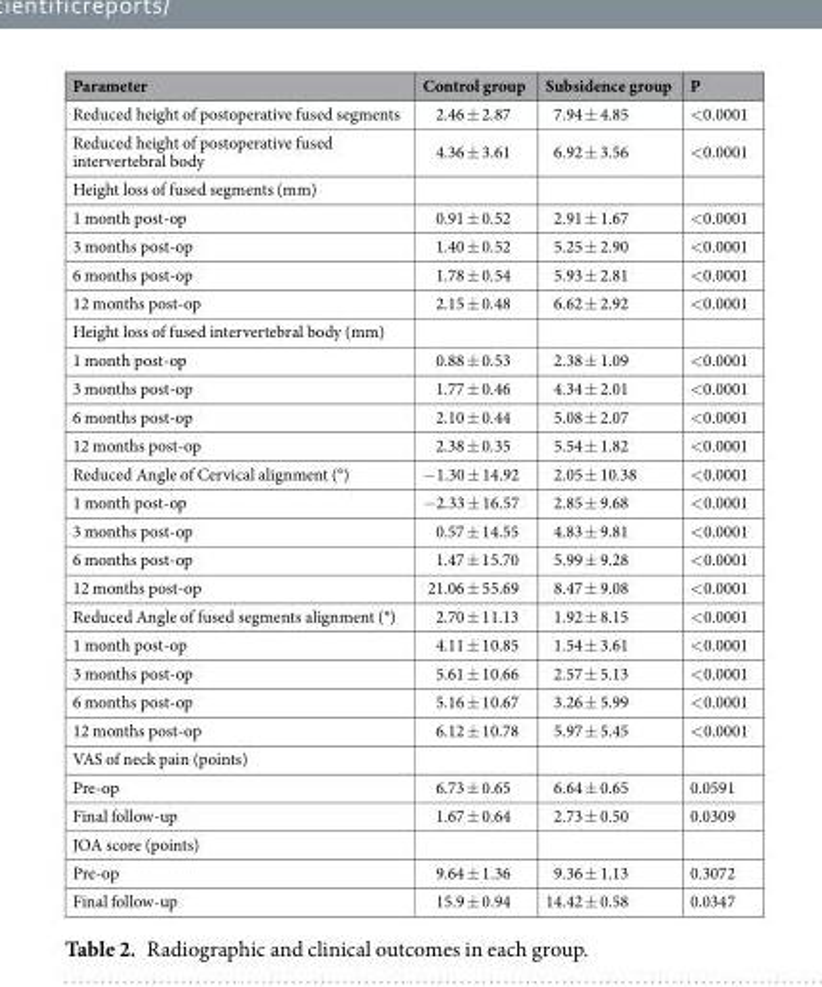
<table><thead><tr><td>Parameter</td><td>Control group</td><td>Subsidence group</td><td>P</td></tr></thead><tbody><tr><td>Reduced height of postoperative fused segments</td><td>2.46 ± 2.87</td><td>7.94 ± 4.85</td><td>&lt;0.0001</td></tr><tr><td>Reduced height of postoperative fused intervertebral body</td><td>4.36 ± 3.61</td><td>6.92 ± 3.56</td><td>&lt;0.0001</td></tr><tr><td colspan="4">Height loss of fused segments (mm)</td></tr><tr><td>1 month post-op</td><td>0.91 ± 0.52</td><td>2.91 ± 1.67</td><td>&lt;0.0001</td></tr><tr><td>3 months post-op</td><td>1.40 ± 0.52</td><td>5.25 ± 2.90</td><td>&lt;0.0001</td></tr><tr><td>6 months post-op</td><td>1.78 ± 0.54</td><td>5.93 ± 2.81</td><td>&lt;0.0001</td></tr><tr><td>12 months post-op</td><td>2.15 ± 0.48</td><td>6.62 ± 2.92</td><td>&lt;0.0001</td></tr><tr><td colspan="4">Height loss of fused intervertebral body (mm)</td></tr><tr><td>1 month post-op</td><td>0.88 ± 0.53</td><td>2.38 ± 1.09</td><td>&lt;0.0001</td></tr><tr><td>3 months post-op</td><td>1.77 ± 0.46</td><td>4.34 ± 2.01</td><td>&lt;0.0001</td></tr><tr><td>6 months post-op</td><td>2.10 ± 0.44</td><td>5.08 ± 2.07</td><td>&lt;0.0001</td></tr><tr><td>12 months post-op</td><td>2.38 ± 0.35</td><td>5.54 ± 1.82</td><td>&lt;0.0001</td></tr><tr><td>Reduced Angle of Cervical alignment (°)</td><td>−1.30 ± 14.92</td><td>2.05 ± 10.38</td><td>&lt;0.0001</td></tr><tr><td>1 month post-op</td><td>−2.33 ± 16.57</td><td>2.85 ± 9.68</td><td>&lt;0.0001</td></tr><tr><td>3 months post-op</td><td>0.57 ± 14.55</td><td>4.83 ± 9.81</td><td>&lt;0.0001</td></tr><tr><td>6 months post-op</td><td>1.47 ± 15.70</td><td>5.99 ± 9.28</td><td>&lt;0.0001</td></tr><tr><td>12 months post-op</td><td>21.06 ± 55.69</td><td>8.47 ± 9.08</td><td>&lt;0.0001</td></tr><tr><td>Reduced Angle of fused segments alignment (°)</td><td>2.70 ± 11.13</td><td>1.92 ± 8.15</td><td>&lt;0.0001</td></tr><tr><td>1 month post-op</td><td>4.11 ± 10.85</td><td>1.54 ± 3.61</td><td>&lt;0.0001</td></tr><tr><td>3 months post-op</td><td>5.61 ± 10.66</td><td>2.57 ± 5.13</td><td>&lt;0.0001</td></tr><tr><td>6 months post-op</td><td>5.16 ± 10.67</td><td>3.26 ± 5.99</td><td>&lt;0.0001</td></tr><tr><td>12 months post-op</td><td>6.12 ± 10.78</td><td>5.97 ± 5.45</td><td>&lt;0.0001</td></tr><tr><td colspan="4">VAS of neck pain (points)</td></tr><tr><td>Pre-op</td><td>6.73 ± 0.65</td><td>6.64 ± 0.65</td><td>0.0591</td></tr><tr><td>Final follow-up</td><td>1.67 ± 0.64</td><td>2.73 ± 0.50</td><td>0.0309</td></tr><tr><td colspan="4">JOA score (points)</td></tr><tr><td>Pre-op</td><td>9.64 ± 1.36</td><td>9.36 ± 1.13</td><td>0.3072</td></tr><tr><td>Final follow-up</td><td>15.9 ± 0.94</td><td>14.42 ± 0.58</td><td>0.0347</td></tr></tbody></table>